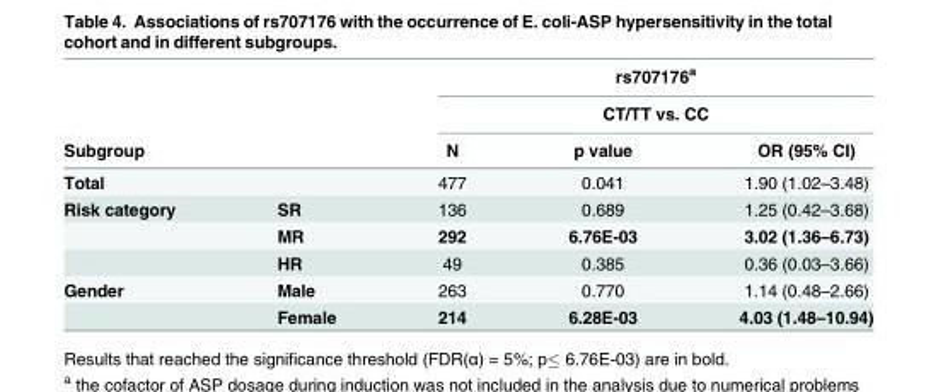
<table><thead><tr><td rowspan="2"></td><td rowspan="2"></td><td rowspan="2" colspan="3">rs707176<sup>a</sup> CT/TT vs. CC</td></tr><tr></tr><tr><td colspan="2">Subgroup</td><td>N</td><td>p value</td><td>OR (95% CI)</td></tr></thead><tbody><tr><td>Total</td><td></td><td>477</td><td>0.041</td><td>1.90 (1.02–3.48)</td></tr><tr><td rowspan="3">Risk category</td><td>SR</td><td>136</td><td>0.689</td><td>1.25 (0.42–3.68)</td></tr><tr><td>MR</td><td>292</td><td>6.76E-03</td><td>3.02 (1.36–6.73)</td></tr><tr><td>HR</td><td>49</td><td>0.385</td><td>0.36 (0.03–3.66)</td></tr><tr><td rowspan="2">Gender</td><td>Male</td><td>263</td><td>0.770</td><td>1.14 (0.48–2.66)</td></tr><tr><td>Female</td><td>214</td><td>6.28E-03</td><td>4.03 (1.48–10.94)</td></tr></tbody></table>